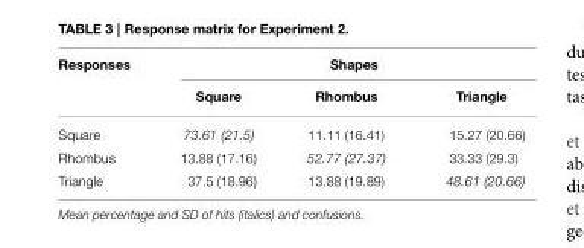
<table><thead><tr><td rowspan="2">Responses</td><td colspan="3">Shapes</td></tr><tr><td>Square</td><td>Rhombus</td><td>Triangle</td></tr></thead><tbody><tr><td>Square</td><td>73.61 (21.5)</td><td>11.11 (16.41)</td><td>15.27 (20.66)</td></tr><tr><td>Rhombus</td><td>13.88 (17.16)</td><td>52.77 (27.37)</td><td>33.33 (29.3)</td></tr><tr><td>Triangle</td><td>37.5 (18.96)</td><td>13.88 (19.89)</td><td>48.61 (20.66)</td></tr></tbody></table>